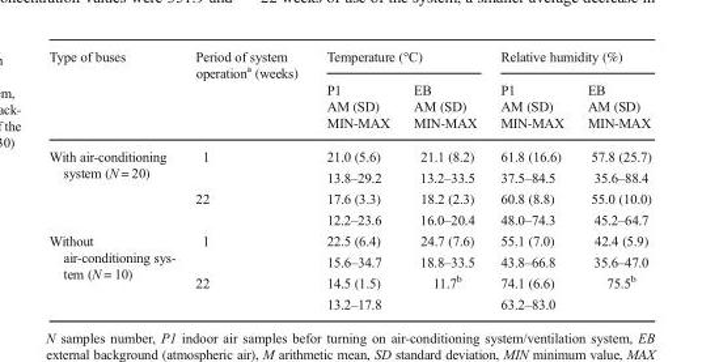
<table><thead><tr><td rowspan="3">Type of buses</td><td rowspan="3">Period of system operation<sup>a</sup> (weeks)</td><td colspan="2">Temperature (°C)</td><td colspan="2">Relative humidity (%)</td></tr><tr><td rowspan="2">P1 AM (SD) MIN-MAX</td><td rowspan="2">EB AM (SD) MIN-MAX</td><td rowspan="2">P1 AM (SD) MIN-MAX</td><td rowspan="2">EB AM (SD) MIN-MAX</td></tr><tr></tr></thead><tbody><tr><td rowspan="2">With air-conditioning system (N = 20)</td><td>1</td><td>21.0 (5.6) 13.8–29.2</td><td>21.1 (8.2) 13.2–33.5</td><td>61.8 (16.6) 37.5–84.5</td><td>57.8 (25.7) 35.6–88.4</td></tr><tr><td>22</td><td>17.6 (3.3) 12.2–23.6</td><td>18.2 (2.3) 16.0–20.4</td><td>60.8 (8.8) 48.0–74.3</td><td>55.0 (10.0) 45.2–64.7</td></tr><tr><td rowspan="2">Without air-conditioning sys- tem (N = 10)</td><td>1</td><td>22.5 (6.4) 15.6–34.7</td><td>24.7 (7.6) 18.8–33.5</td><td>55.1 (7.0) 43.8–66.8</td><td>42.4 (5.9) 35.6–47.0</td></tr><tr><td>22</td><td>14.5 (1.5) 13.2–17.8</td><td>11.7<sup>b</sup></td><td>74.1 (6.6) 63.2–83.0</td><td>75.5<sup>b</sup></td></tr></tbody></table>